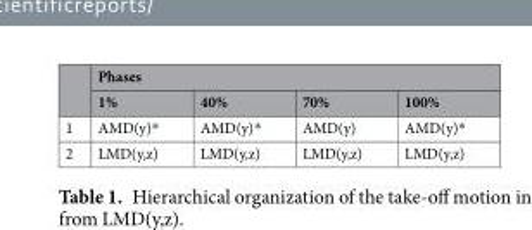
<table><thead><tr><td rowspan="2"></td><td colspan="4">Phases</td></tr><tr><td>1%</td><td>40%</td><td>70%</td><td>100%</td></tr></thead><tbody><tr><td>1</td><td>AMD(y)*</td><td>AMD(y)*</td><td>AMD(y)</td><td>AMD(y)*</td></tr><tr><td>2</td><td>LMD(y,z)</td><td>LMD(y,z)</td><td>LMD(y,z)</td><td>LMD(y,z)</td></tr></tbody></table>